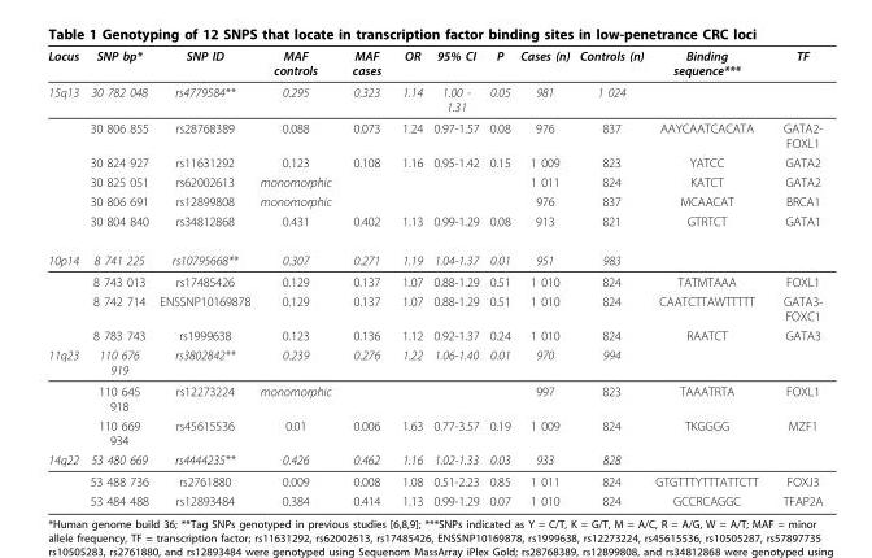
<table><thead><tr><td>Locus</td><td>SNP bp*</td><td>SNP ID</td><td>MAF controls</td><td>MAF cases</td><td>OR</td><td>95% CI</td><td>P</td><td>Cases (n)</td><td>Controls (n)</td><td>Binding sequence***</td><td>TF</td></tr></thead><tbody><tr><td rowspan="6">15q13</td><td>30 782 048</td><td>rs4779584**</td><td>0.295</td><td>0.323</td><td>1.14</td><td>1.00 - 1.31</td><td>0.05</td><td>981</td><td>1 024</td><td></td><td></td></tr><tr><td>30 806 855</td><td>rs28768389</td><td>0.088</td><td>0.073</td><td>1.24</td><td>0.97-1.57</td><td>0.08</td><td>976</td><td>837</td><td>AAYCAATCACATA</td><td>GATA2- FOXL1</td></tr><tr><td>30 824 927</td><td>rs11631292</td><td>0.123</td><td>0.108</td><td>1.16</td><td>0.95-1.42</td><td>0.15</td><td>1 009</td><td>823</td><td>YATCC</td><td>GATA2</td></tr><tr><td>30 825 051</td><td>rs62002613</td><td>monomorphic</td><td></td><td></td><td></td><td></td><td>1 011</td><td>824</td><td>KATCT</td><td>GATA2</td></tr><tr><td>30 806 691</td><td>rs12899808</td><td>monomorphic</td><td></td><td></td><td></td><td></td><td>976</td><td>837</td><td>MCAACAT</td><td>BRCA1</td></tr><tr><td>30 804 840</td><td>rs34812868</td><td>0.431</td><td>0.402</td><td>1.13</td><td>0.99-1.29</td><td>0.08</td><td>913</td><td>821</td><td>GTRTCT</td><td>GATA1</td></tr><tr><td rowspan="4">10p14</td><td>8 741 225</td><td>rs10795668**</td><td>0.307</td><td>0.271</td><td>1.19</td><td>1.04-1.37</td><td>0.01</td><td>951</td><td>983</td><td></td><td></td></tr><tr><td>8 743 013</td><td>rs17485426</td><td>0.129</td><td>0.137</td><td>1.07</td><td>0.88-1.29</td><td>0.51</td><td>1 010</td><td>824</td><td>TATMTAAA</td><td>FOXL1</td></tr><tr><td>8 742 714</td><td>ENSSNP10169878</td><td>0.129</td><td>0.137</td><td>1.07</td><td>0.88-1.29</td><td>0.51</td><td>1 010</td><td>824</td><td>CAATCTTAWTTTTT</td><td>GATA3- FOXC1</td></tr><tr><td>8 783 743</td><td>rs1999638</td><td>0.123</td><td>0.136</td><td>1.12</td><td>0.92-1.37</td><td>0.24</td><td>1 010</td><td>824</td><td>RAATCT</td><td>GATA3</td></tr><tr><td rowspan="3">11q23</td><td>110 676 919</td><td>rs3802842**</td><td>0.239</td><td>0.276</td><td>1.22</td><td>1.06-1.40</td><td>0.01</td><td>970</td><td>994</td><td></td><td></td></tr><tr><td>110 645 918</td><td>rs12273224</td><td>monomorphic</td><td></td><td></td><td></td><td></td><td>997</td><td>823</td><td>TAAATRTA</td><td>FOXL1</td></tr><tr><td>110 669 934</td><td>rs45615536</td><td>0.01</td><td>0.006</td><td>1.63</td><td>0.77-3.57</td><td>0.19</td><td>1 009</td><td>824</td><td>TKGGGG</td><td>MZF1</td></tr><tr><td rowspan="3">14q22</td><td>53 480 669</td><td>rs4444235**</td><td>0.426</td><td>0.462</td><td>1.16</td><td>1.02-1.33</td><td>0.03</td><td>933</td><td>828</td><td></td><td></td></tr><tr><td>53 488 736</td><td>rs2761880</td><td>0.009</td><td>0.008</td><td>1.08</td><td>0.51-2.23</td><td>0.85</td><td>1 011</td><td>824</td><td>GTGTTTYTTTATTCTT</td><td>FOXJ3</td></tr><tr><td>53 484 488</td><td>rs12893484</td><td>0.384</td><td>0.414</td><td>1.13</td><td>0.99-1.29</td><td>0.07</td><td>1 010</td><td>824</td><td>GCCRCAGGC</td><td>TFAP2A</td></tr></tbody></table>